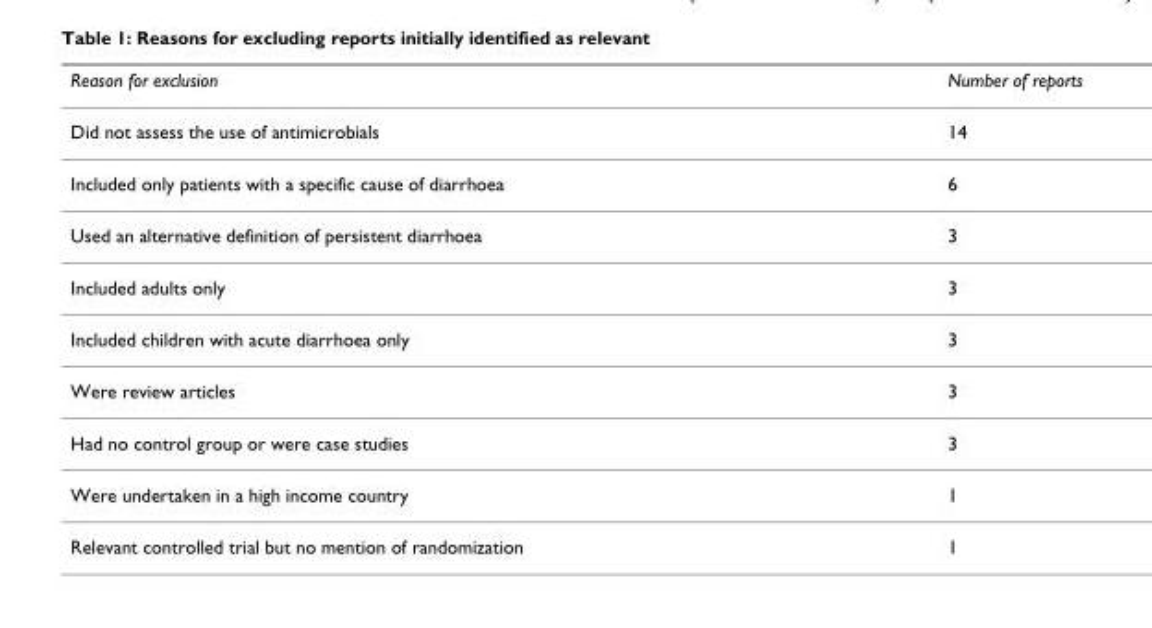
<table><thead><tr><td>Reason for exclusion</td><td>Number of reports</td></tr></thead><tbody><tr><td>Did not assess the use of antimicrobials</td><td>14</td></tr><tr><td>Included only patients with a specific cause of diarrhoea</td><td>6</td></tr><tr><td>Used an alternative definition of persistent diarrhoea</td><td>3</td></tr><tr><td>Included adults only</td><td>3</td></tr><tr><td>Included children with acute diarrhoea only</td><td>3</td></tr><tr><td>Were review articles</td><td>3</td></tr><tr><td>Had no control group or were case studies</td><td>3</td></tr><tr><td>Were undertaken in a high income country</td><td>1</td></tr><tr><td>Relevant controlled trial but no mention of randomization</td><td>1</td></tr></tbody></table>